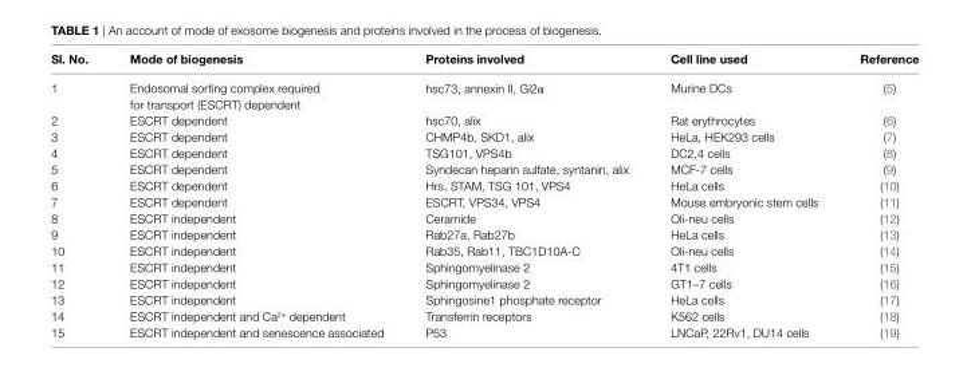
<table><thead><tr><td>Sl. No.</td><td>Mode of biogenesis</td><td>Proteins involved</td><td>Cell line used</td><td>Reference</td></tr></thead><tbody><tr><td>1</td><td>Endosomal sorting complex required for transport (ESCRT) dependent</td><td>hsc73, annexin II, Gi2α</td><td>Murine DCs</td><td>(5)</td></tr><tr><td>2</td><td>ESCRT dependent</td><td>hsc70, alix</td><td>Rat erythrocytes</td><td>(6)</td></tr><tr><td>3</td><td>ESCRT dependent</td><td>CHMP4b, SKD1, alix</td><td>HeLa, HEK293 cells</td><td>(7)</td></tr><tr><td>4</td><td>ESCRT dependent</td><td>TSG101, VPS4b</td><td>DC2.4 cells</td><td>(8)</td></tr><tr><td>5</td><td>ESCRT dependent</td><td>Syndecan heparin sulfate, syntanin, alix</td><td>MCF-7 cells</td><td>(9)</td></tr><tr><td>6</td><td>ESCRT dependent</td><td>Hrs, STAM, TSG 101, VPS4</td><td>HeLa cells</td><td>(10)</td></tr><tr><td>7</td><td>ESCRT dependent</td><td>ESCRT, VPS34, VPS4</td><td>Mouse embryonic stem cells</td><td>(11)</td></tr><tr><td>8</td><td>ESCRT independent</td><td>Ceramide</td><td>Oli-neu cells</td><td>(12)</td></tr><tr><td>9</td><td>ESCRT independent</td><td>Rab27a, Rab27b</td><td>HeLa cells</td><td>(13)</td></tr><tr><td>10</td><td>ESCRT independent</td><td>Rab35, Rab11, TBC1D10A-C</td><td>Oli-neu cells</td><td>(14)</td></tr><tr><td>11</td><td>ESCRT independent</td><td>Sphingomyelinase 2</td><td>4T1 cells</td><td>(15)</td></tr><tr><td>12</td><td>ESCRT independent</td><td>Sphingomyelinase 2</td><td>GT1–7 cells</td><td>(16)</td></tr><tr><td>13</td><td>ESCRT independent</td><td>Sphingosine1 phosphate receptor</td><td>HeLa cells</td><td>(17)</td></tr><tr><td>14</td><td>ESCRT independent and Ca<sup>2+</sup> dependent</td><td>Transferrin receptors</td><td>K562 cells</td><td>(18)</td></tr><tr><td>15</td><td>ESCRT independent and senescence associated</td><td>P53</td><td>LNCaP, 22Rv1, DU14 cells</td><td>(19)</td></tr></tbody></table>